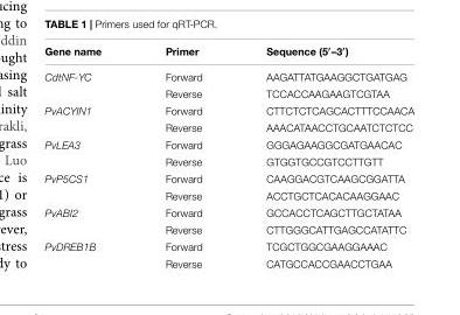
<table><thead><tr><td>Gene name</td><td>Primer</td><td>Sequence (5′–3′)</td></tr></thead><tbody><tr><td rowspan="2">CdtNF-YC</td><td>Forward</td><td>AAGATTATGAAGGCTGATGAG</td></tr><tr><td>Reverse</td><td>TCCACCAAGAAGTCGTAA</td></tr><tr><td rowspan="2">PvACYIN1</td><td>Forward</td><td>CTTCTCTCAGCACTTTCCAACA</td></tr><tr><td>Reverse</td><td>AAACATAACCTGCAATCTCTCC</td></tr><tr><td rowspan="2">PvLEA3</td><td>Forward</td><td>GGGAGAAGGCGATGAACAC</td></tr><tr><td>Reverse</td><td>GTGGTGCCGTCCTTGTT</td></tr><tr><td rowspan="2">PvP5CS1</td><td>Forward</td><td>CAAGGACGTCAAGCGGATTA</td></tr><tr><td>Reverse</td><td>ACCTGCTCACACAAGGAAC</td></tr><tr><td rowspan="2">PvABI2</td><td>Forward</td><td>GCCACCTCAGCTTGCTATAA</td></tr><tr><td>Reverse</td><td>CTTGGGCATTGAGCCATATTC</td></tr><tr><td rowspan="2">PvDREB1B</td><td>Forward</td><td>TCGCTGGCGAAGGAAAC</td></tr><tr><td>Reverse</td><td>CATGCCACCGAACCTGAA</td></tr></tbody></table>